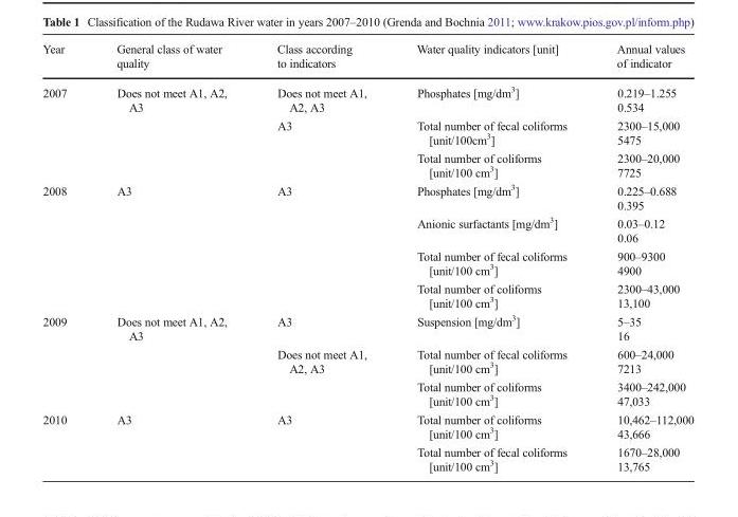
<table><thead><tr><td>Year</td><td>General class of water quality</td><td>Class according to indicators</td><td>Water quality indicators [unit]</td><td>Annual values of indicator</td></tr></thead><tbody><tr><td rowspan="3">2007</td><td rowspan="3">Does not meet A1, A2, A3</td><td>Does not meet A1, A2, A3</td><td>Phosphates [mg/dm<sup>3</sup>]</td><td>0.219–1.255 0.534</td></tr><tr><td rowspan="2">A3</td><td>Total number of fecal coliforms [unit/100cm<sup>3</sup>]</td><td>2300–15,000 5475</td></tr><tr><td>Total number of coliforms [unit/100 cm<sup>3</sup>]</td><td>2300–20,000 7725</td></tr><tr><td rowspan="4">2008</td><td rowspan="4">A3</td><td rowspan="4">A3</td><td>Phosphates [mg/dm<sup>3</sup>]</td><td>0.225–0.688 0.395</td></tr><tr><td>Anionic surfactants [mg/dm<sup>3</sup>]</td><td>0.03–0.12 0.06</td></tr><tr><td>Total number of fecal coliforms [unit/100 cm<sup>3</sup>]</td><td>900–9300 4900</td></tr><tr><td>Total number of coliforms [unit/100 cm<sup>3</sup>]</td><td>2300–43,000 13,100</td></tr><tr><td rowspan="3">2009</td><td rowspan="3">Does not meet A1, A2, A3</td><td>A3</td><td>Suspension [mg/dm<sup>3</sup>]</td><td>5–35 16</td></tr><tr><td rowspan="2">Does not meet A1, A2, A3</td><td>Total number of fecal coliforms [unit/100 cm<sup>3</sup>]</td><td>600–24,000 7213</td></tr><tr><td>Total number of coliforms [unit/100 cm<sup>3</sup>]</td><td>3400–242,000 47,033</td></tr><tr><td rowspan="2">2010</td><td rowspan="2">A3</td><td rowspan="2">A3</td><td>Total number of coliforms [unit/100 cm<sup>3</sup>]</td><td>10,462–112,000 43,666</td></tr><tr><td>Total number of fecal coliforms [unit/100 cm<sup>3</sup>]</td><td>1670–28,000 13,765</td></tr></tbody></table>